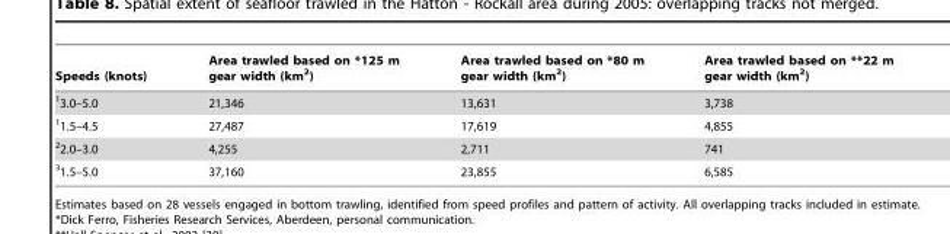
<table><thead><tr><td>Speeds (knots)</td><td>Area trawled based on *125 m gear width (km<sup>2</sup>)</td><td>Area trawled based on *80 m gear width (km<sup>2</sup>)</td><td>Area trawled based on **22 m gear width (km<sup>2</sup>)</td></tr></thead><tbody><tr><td>13.0–5.0</td><td>21,346</td><td>13,631</td><td>3,738</td></tr><tr><td>11.5–4.5</td><td>27,487</td><td>17,619</td><td>4,855</td></tr><tr><td>22.0–3.0</td><td>4,255</td><td>2,711</td><td>741</td></tr><tr><td>31.5–5.0</td><td>37,160</td><td>23,855</td><td>6,585</td></tr></tbody></table>